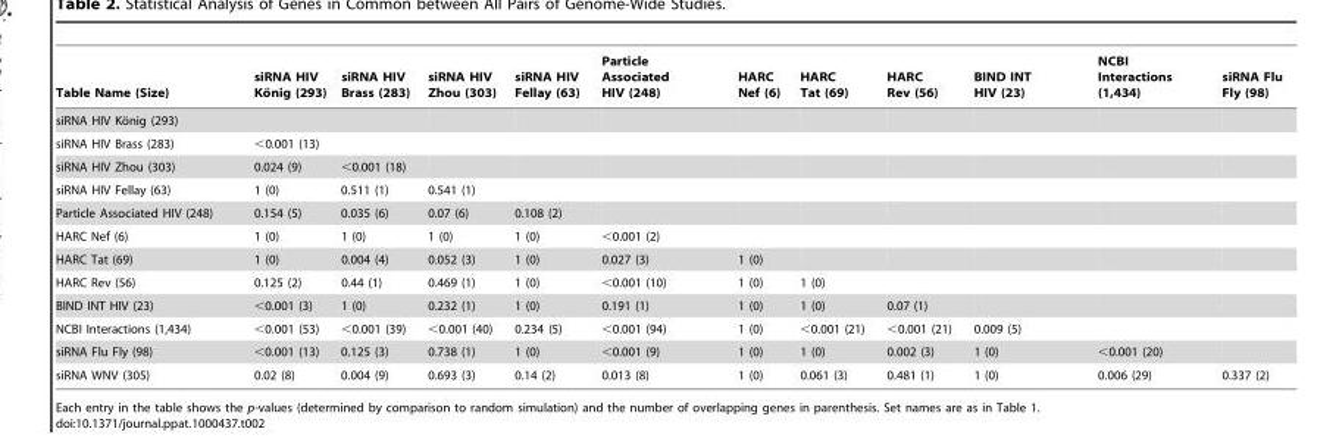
<table><thead><tr><td>Table Name (Size)</td><td>siRNA HIV Ko¨ nig (293)</td><td>siRNA HIV Brass (283)</td><td>siRNA HIV Zhou (303)</td><td>siRNA HIV Fellay (63)</td><td>Particle Associated HIV (248)</td><td>HARC Nef (6)</td><td>HARC Tat (69)</td><td>HARC Rev (56)</td><td>BIND INT HIV (23)</td><td>NCBI Interactions (1,434)</td><td>siRNA Flu Fly (98)</td></tr></thead><tbody><tr><td colspan="12">siRNA HIV Ko¨nig (293)</td></tr><tr><td>siRNA HIV Brass (283)</td><td>&lt;0.001 (13)</td><td></td><td></td><td></td><td></td><td></td><td></td><td></td><td></td><td></td><td></td></tr><tr><td>siRNA HIV Zhou (303)</td><td>0.024 (9)</td><td>&lt;0.001 (18)</td><td></td><td></td><td></td><td></td><td></td><td></td><td></td><td></td><td></td></tr><tr><td>siRNA HIV Fellay (63)</td><td>1 (0)</td><td>0.511 (1)</td><td>0.541 (1)</td><td></td><td></td><td></td><td></td><td></td><td></td><td></td><td></td></tr><tr><td>Particle Associated HIV (248)</td><td>0.154 (5)</td><td>0.035 (6)</td><td>0.07 (6)</td><td>0.108 (2)</td><td></td><td></td><td></td><td></td><td></td><td></td><td></td></tr><tr><td>HARC Nef (6)</td><td>1 (0)</td><td>1 (0)</td><td>1 (0)</td><td>1 (0)</td><td>&lt;0.001 (2)</td><td></td><td></td><td></td><td></td><td></td><td></td></tr><tr><td>HARC Tat (69)</td><td>1 (0)</td><td>0.004 (4)</td><td>0.052 (3)</td><td>1 (0)</td><td>0.027 (3)</td><td>1 (0)</td><td></td><td></td><td></td><td></td><td></td></tr><tr><td>HARC Rev (56)</td><td>0.125 (2)</td><td>0.44 (1)</td><td>0.469 (1)</td><td>1 (0)</td><td>&lt;0.001 (10)</td><td>1 (0)</td><td>1 (0)</td><td></td><td></td><td></td><td></td></tr><tr><td>BIND INT HIV (23)</td><td>&lt;0.001 (3)</td><td>1 (0)</td><td>0.232 (1)</td><td>1 (0)</td><td>0.191 (1)</td><td>1 (0)</td><td>1 (0)</td><td>0.07 (1)</td><td></td><td></td><td></td></tr><tr><td>NCBI Interactions (1,434)</td><td>&lt;0.001 (53)</td><td>&lt;0.001 (39)</td><td>&lt;0.001 (40)</td><td>0.234 (5)</td><td>&lt;0.001 (94)</td><td>1 (0)</td><td>&lt;0.001 (21)</td><td>&lt;0.001 (21)</td><td>0.009 (5)</td><td></td><td></td></tr><tr><td>siRNA Flu Fly (98)</td><td>&lt;0.001 (13)</td><td>0.125 (3)</td><td>0.738 (1)</td><td>1 (0)</td><td>&lt;0.001 (9)</td><td>1 (0)</td><td>1 (0)</td><td>0.002 (3)</td><td>1 (0)</td><td>&lt;0.001 (20)</td><td></td></tr><tr><td>siRNA WNV (305)</td><td>0.02 (8)</td><td>0.004 (9)</td><td>0.693 (3)</td><td>0.14 (2)</td><td>0.013 (8)</td><td>1 (0)</td><td>0.061 (3)</td><td>0.481 (1)</td><td>1 (0)</td><td>0.006 (29)</td><td>0.337 (2)</td></tr></tbody></table>